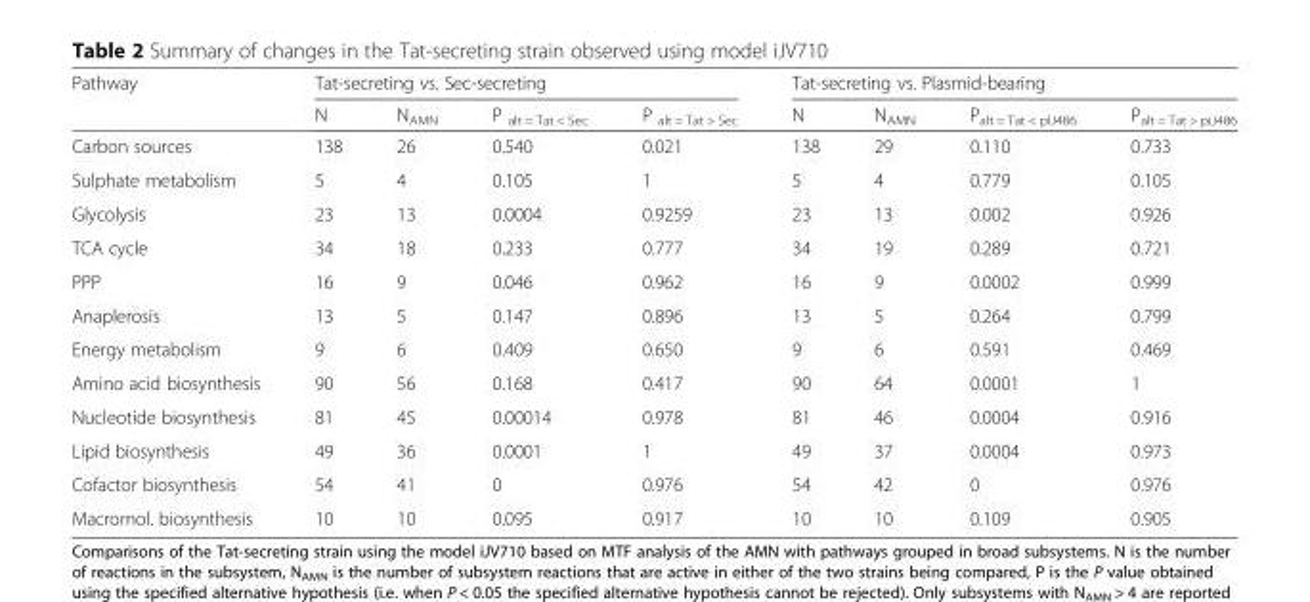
<table><thead><tr><td rowspan="2">Pathway</td><td colspan="4">Tat-secreting vs. Sec-secreting</td><td colspan="4">Tat-secreting vs. Plasmid-bearing</td></tr><tr><td>N</td><td>N<sub>AMN</sub></td><td>P <sub>alt = Tat &lt; Sec</sub></td><td>P <sub>alt = Tat &gt; Sec</sub></td><td>N</td><td>N<sub>AMN</sub></td><td>P<sub>alt = Tat &lt; pIJ486</sub></td><td>P<sub>alt = Tat &gt; piJ486</sub></td></tr></thead><tbody><tr><td>Carbon sources</td><td>138</td><td>26</td><td>0.540</td><td>0.021</td><td>138</td><td>29</td><td>0.110</td><td>0.733</td></tr><tr><td>Sulphate metabolism</td><td>5</td><td>4</td><td>0.105</td><td>1</td><td>5</td><td>4</td><td>0.779</td><td>0.105</td></tr><tr><td>Glycolysis</td><td>23</td><td>13</td><td>0.0004</td><td>0.9259</td><td>23</td><td>13</td><td>0.002</td><td>0.926</td></tr><tr><td>TCA cycle</td><td>34</td><td>18</td><td>0.233</td><td>0.777</td><td>34</td><td>19</td><td>0.289</td><td>0.721</td></tr><tr><td>PPP</td><td>16</td><td>9</td><td>0.046</td><td>0.962</td><td>16</td><td>9</td><td>0.0002</td><td>0.999</td></tr><tr><td>Anaplerosis</td><td>13</td><td>5</td><td>0.147</td><td>0.896</td><td>13</td><td>5</td><td>0.264</td><td>0.799</td></tr><tr><td>Energy metabolism</td><td>9</td><td>6</td><td>0.409</td><td>0.650</td><td>9</td><td>6</td><td>0.591</td><td>0.469</td></tr><tr><td>Amino acid biosynthesis</td><td>90</td><td>56</td><td>0.168</td><td>0.417</td><td>90</td><td>64</td><td>0.0001</td><td>1</td></tr><tr><td>Nucleotide biosynthesis</td><td>81</td><td>45</td><td>0.00014</td><td>0.978</td><td>81</td><td>46</td><td>0.0004</td><td>0.916</td></tr><tr><td>Lipid biosynthesis</td><td>49</td><td>36</td><td>0.0001</td><td>1</td><td>49</td><td>37</td><td>0.0004</td><td>0.973</td></tr><tr><td>Cofactor biosynthesis</td><td>54</td><td>41</td><td>0</td><td>0.976</td><td>54</td><td>42</td><td>0</td><td>0.976</td></tr><tr><td>Macromol. biosynthesis</td><td>10</td><td>10</td><td>0.095</td><td>0.917</td><td>10</td><td>10</td><td>0.109</td><td>0.905</td></tr></tbody></table>